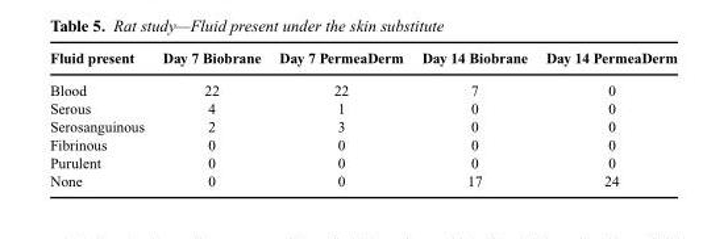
<table><thead><tr><td>Fluid present</td><td>Day 7 Biobrane</td><td>Day 7 PermeaDerm</td><td>Day 14 Biobrane</td><td>Day 14 PermeaDerm</td></tr></thead><tbody><tr><td>Blood</td><td>22</td><td>22</td><td>7</td><td>0</td></tr><tr><td>Serous</td><td>4</td><td>1</td><td>0</td><td>0</td></tr><tr><td>Serosanguinous</td><td>2</td><td>3</td><td>0</td><td>0</td></tr><tr><td>Fibrinous</td><td>0</td><td>0</td><td>0</td><td>0</td></tr><tr><td>Purulent</td><td>0</td><td>0</td><td>0</td><td>0</td></tr><tr><td>None</td><td>0</td><td>0</td><td>17</td><td>24</td></tr></tbody></table>